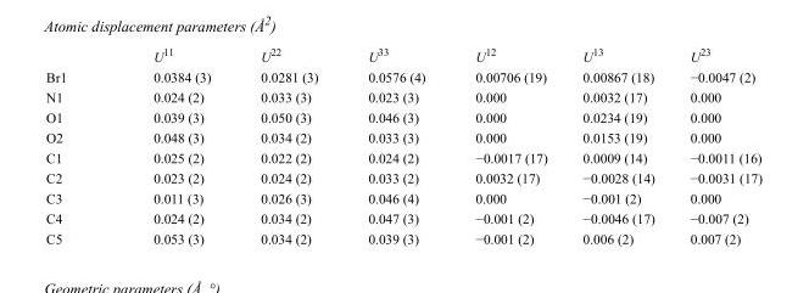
<table><thead><tr><td></td><td>U<sup>11</sup></td><td>U<sup>22</sup></td><td>U<sup>33</sup></td><td>U<sup>12</sup></td><td>U<sup>13</sup></td><td>U<sup>23</sup></td></tr></thead><tbody><tr><td>Br1</td><td>0.0384 (3)</td><td>0.0281 (3)</td><td>0.0576 (4)</td><td>0.00706 (19)</td><td>0.00867 (18)</td><td>−0.0047 (2)</td></tr><tr><td>N1</td><td>0.024 (2)</td><td>0.033 (3)</td><td>0.023 (3)</td><td>0.000</td><td>0.0032 (17)</td><td>0.000</td></tr><tr><td>O1</td><td>0.039 (3)</td><td>0.050 (3)</td><td>0.046 (3)</td><td>0.000</td><td>0.0234 (19)</td><td>0.000</td></tr><tr><td>O2</td><td>0.048 (3)</td><td>0.034 (2)</td><td>0.033 (3)</td><td>0.000</td><td>0.0153 (19)</td><td>0.000</td></tr><tr><td>C1</td><td>0.025 (2)</td><td>0.022 (2)</td><td>0.024 (2)</td><td>−0.0017 (17)</td><td>0.0009 (14)</td><td>−0.0011 (16)</td></tr><tr><td>C2</td><td>0.023 (2)</td><td>0.024 (2)</td><td>0.033 (2)</td><td>0.0032 (17)</td><td>−0.0028 (14)</td><td>−0.0031 (17)</td></tr><tr><td>C3</td><td>0.011 (3)</td><td>0.026 (3)</td><td>0.046 (4)</td><td>0.000</td><td>−0.001 (2)</td><td>0.000</td></tr><tr><td>C4</td><td>0.024 (2)</td><td>0.034 (2)</td><td>0.047 (3)</td><td>−0.001 (2)</td><td>−0.0046 (17)</td><td>−0.007 (2)</td></tr><tr><td>C5</td><td>0.053 (3)</td><td>0.034 (2)</td><td>0.039 (3)</td><td>−0.001 (2)</td><td>0.006 (2)</td><td>0.007 (2)</td></tr></tbody></table>